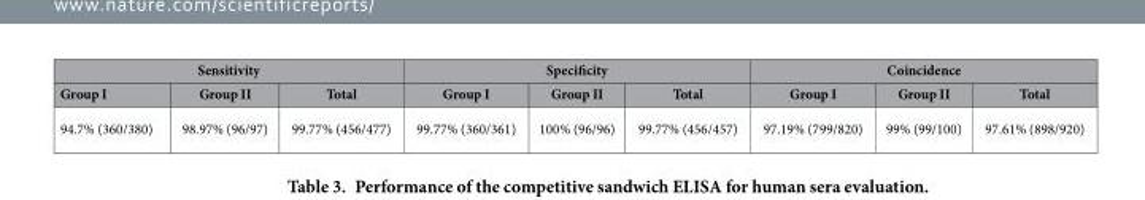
<table><thead><tr><td colspan="3">Sensitivity</td><td colspan="3">Specificity</td><td colspan="3">Coincidence</td></tr><tr><td>Group I</td><td>Group II</td><td>Total</td><td>Group I</td><td>Group II</td><td>Total</td><td>Group I</td><td>Group II</td><td>Total</td></tr></thead><tbody><tr><td>94.7% (360/380)</td><td>98.97% (96/97)</td><td>99.77% (456/477)</td><td>99.77% (360/361)</td><td>100% (96/96)</td><td>99.77% (456/457)</td><td>97.19% (799/820)</td><td>99% (99/100)</td><td>97.61% (898/920)</td></tr></tbody></table>